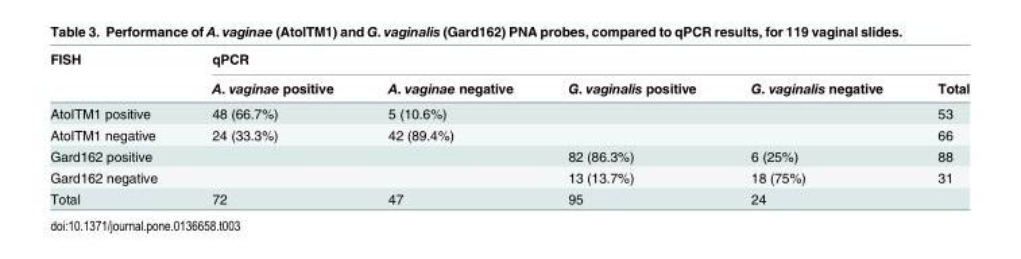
<table><thead><tr><td rowspan="2">FISH</td><td colspan="5">qPCR</td></tr><tr><td>A. vaginae positive</td><td>A. vaginae negative</td><td>G. vaginalis positive</td><td>G. vaginalis negative</td><td>Total</td></tr></thead><tbody><tr><td>AtoITM1 positive</td><td>48 (66.7%)</td><td>5 (10.6%)</td><td></td><td></td><td>53</td></tr><tr><td>AtoITM1 negative</td><td>24 (33.3%)</td><td>42 (89.4%)</td><td></td><td></td><td>66</td></tr><tr><td>Gard162 positive</td><td></td><td></td><td>82 (86.3%)</td><td>6 (25%)</td><td>88</td></tr><tr><td>Gard162 negative</td><td></td><td></td><td>13 (13.7%)</td><td>18 (75%)</td><td>31</td></tr><tr><td>Total</td><td>72</td><td>47</td><td>95</td><td>24</td><td></td></tr></tbody></table>